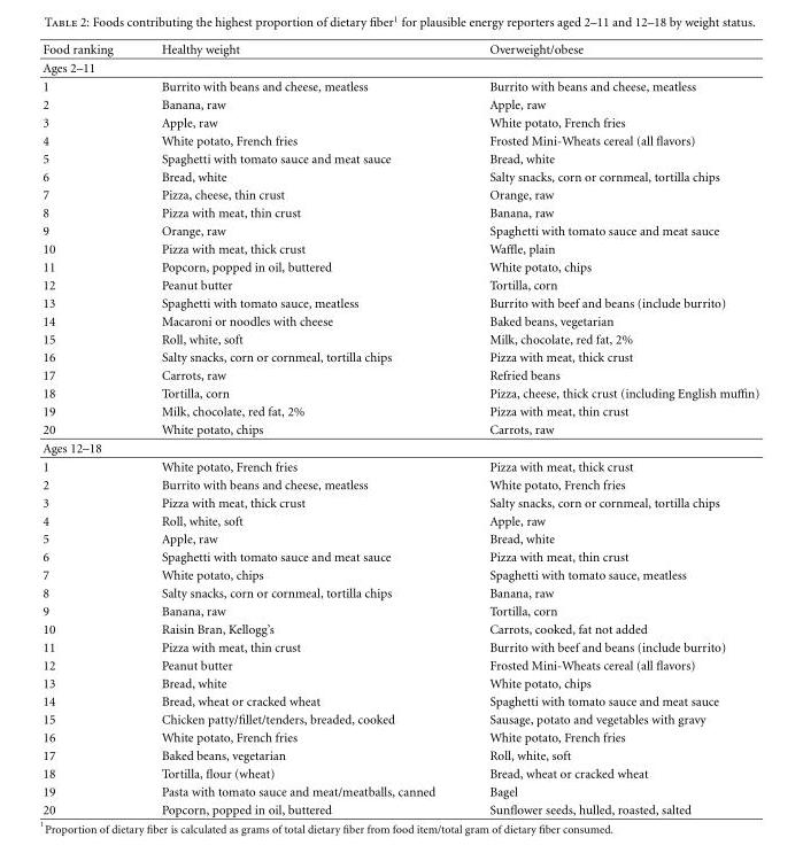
<table><thead><tr><td>Food ranking</td><td>Healthy weight</td><td>Overweight/obese</td></tr></thead><tbody><tr><td colspan="3">Ages 2–11</td></tr><tr><td>1</td><td>Burrito with beans and cheese, meatless</td><td>Burrito with beans and cheese, meatless</td></tr><tr><td>2</td><td>Banana, raw</td><td>Apple, raw</td></tr><tr><td>3</td><td>Apple, raw</td><td>White potato, French fries</td></tr><tr><td>4</td><td>White potato, French fries</td><td>Frosted Mini-Wheats cereal (all flavors)</td></tr><tr><td>5</td><td>Spaghetti with tomato sauce and meat sauce</td><td>Bread, white</td></tr><tr><td>6</td><td>Bread, white</td><td>Salty snacks, corn or cornmeal, tortilla chips</td></tr><tr><td>7</td><td>Pizza, cheese, thin crust</td><td>Orange, raw</td></tr><tr><td>8</td><td>Pizza with meat, thin crust</td><td>Banana, raw</td></tr><tr><td>9</td><td>Orange, raw</td><td>Spaghetti with tomato sauce and meat sauce</td></tr><tr><td>10</td><td>Pizza with meat, thick crust</td><td>Waffle, plain</td></tr><tr><td>11</td><td>Popcorn, popped in oil, buttered</td><td>White potato, chips</td></tr><tr><td>12</td><td>Peanut butter</td><td>Tortilla, corn</td></tr><tr><td>13</td><td>Spaghetti with tomato sauce, meatless</td><td>Burrito with beef and beans (include burrito)</td></tr><tr><td>14</td><td>Macaroni or noodles with cheese</td><td>Baked beans, vegetarian</td></tr><tr><td>15</td><td>Roll, white, soft</td><td>Milk, chocolate, red fat, 2%</td></tr><tr><td>16</td><td>Salty snacks, corn or cornmeal, tortilla chips</td><td>Pizza with meat, thick crust</td></tr><tr><td>17</td><td>Carrots, raw</td><td>Refried beans</td></tr><tr><td>18</td><td>Tortilla, corn</td><td>Pizza, cheese, thick crust (including English muffin)</td></tr><tr><td>19</td><td>Milk, chocolate, red fat, 2%</td><td>Pizza with meat, thin crust</td></tr><tr><td>20</td><td>White potato, chips</td><td>Carrots, raw</td></tr><tr><td colspan="3">Ages 12–18</td></tr><tr><td>1</td><td>White potato, French fries</td><td>Pizza with meat, thick crust</td></tr><tr><td>2</td><td>Burrito with beans and cheese, meatless</td><td>White potato, French fries</td></tr><tr><td>3</td><td>Pizza with meat, thick crust</td><td>Salty snacks, corn or cornmeal, tortilla chips</td></tr><tr><td>4</td><td>Roll, white, soft</td><td>Apple, raw</td></tr><tr><td>5</td><td>Apple, raw</td><td>Bread, white</td></tr><tr><td>6</td><td>Spaghetti with tomato sauce and meat sauce</td><td>Pizza with meat, thin crust</td></tr><tr><td>7</td><td>White potato, chips</td><td>Spaghetti with tomato sauce, meatless</td></tr><tr><td>8</td><td>Salty snacks, corn or cornmeal, tortilla chips</td><td>Banana, raw</td></tr><tr><td>9</td><td>Banana, raw</td><td>Tortilla, corn</td></tr><tr><td>10</td><td>Raisin Bran, Kellogg’s</td><td>Carrots, cooked, fat not added</td></tr><tr><td>11</td><td>Pizza with meat, thin crust</td><td>Burrito with beef and beans (include burrito)</td></tr><tr><td>12</td><td>Peanut butter</td><td>Frosted Mini-Wheats cereal (all flavors)</td></tr><tr><td>13</td><td>Bread, white</td><td>White potato, chips</td></tr><tr><td>14</td><td>Bread, wheat or cracked wheat</td><td>Spaghetti with tomato sauce and meat sauce</td></tr><tr><td>15</td><td>Chicken patty/fillet/tenders, breaded, cooked</td><td>Sausage, potato and vegetables with gravy</td></tr><tr><td>16</td><td>White potato, French fries</td><td>White potato, French fries</td></tr><tr><td>17</td><td>Baked beans, vegetarian</td><td>Roll, white, soft</td></tr><tr><td>18</td><td>Tortilla, flour (wheat)</td><td>Bread, wheat or cracked wheat</td></tr><tr><td>19</td><td>Pasta with tomato sauce and meat/meatballs, canned</td><td>Bagel</td></tr><tr><td>20</td><td>Popcorn, popped in oil, buttered</td><td>Sunflower seeds, hulled, roasted, salted</td></tr></tbody></table>